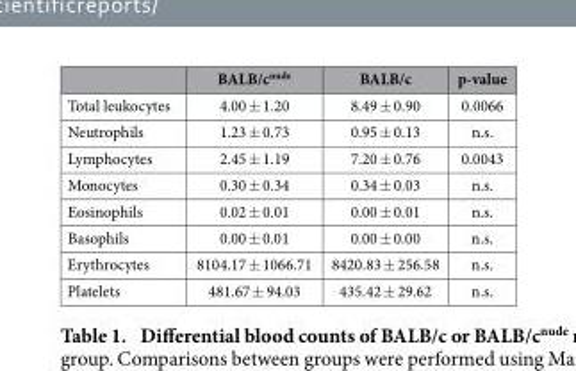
<table><thead><tr><td></td><td>BALB/c<sup>nude</sup></td><td>BALB/c</td><td>p-value</td></tr></thead><tbody><tr><td>Total leukocytes</td><td>4.00 ± 1.20</td><td>8.49 ± 0.90</td><td>0.0066</td></tr><tr><td>Neutrophils</td><td>1.23 ± 0.73</td><td>0.95 ± 0.13</td><td>n.s.</td></tr><tr><td>Lymphocytes</td><td>2.45 ± 1.19</td><td>7.20 ± 0.76</td><td>0.0043</td></tr><tr><td>Monocytes</td><td>0.30 ± 0.34</td><td>0.34 ± 0.03</td><td>n.s.</td></tr><tr><td>Eosinophils</td><td>0.02 ± 0.01</td><td>0.00 ± 0.01</td><td>n.s.</td></tr><tr><td>Basophils</td><td>0.00 ± 0.01</td><td>0.00 ± 0.00</td><td>n.s.</td></tr><tr><td>Erythrocytes</td><td>8104.17 ± 1066.71</td><td>8420.83 ± 256.58</td><td>n.s.</td></tr><tr><td>Platelets</td><td>481.67 ± 94.03</td><td>435.42 ± 29.62</td><td>n.s.</td></tr></tbody></table>